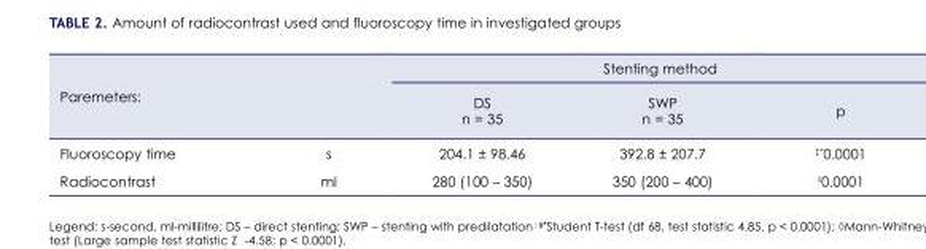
<table><thead><tr><td rowspan="2">Paremeters:</td><td rowspan="2"></td><td colspan="3">Stenting method</td></tr><tr><td>DS n = 35</td><td>SWP n = 35</td><td>p</td></tr></thead><tbody><tr><td>Fluoroscopy time</td><td>s</td><td>204.1 ± 98.46</td><td>392.8 ± 207.7</td><td><sup>‡*</sup>0.0001</td></tr><tr><td>Radiocontrast</td><td>ml</td><td>280 (100 – 350)</td><td>350 (200 – 400)</td><td>◊0.0001</td></tr></tbody></table>